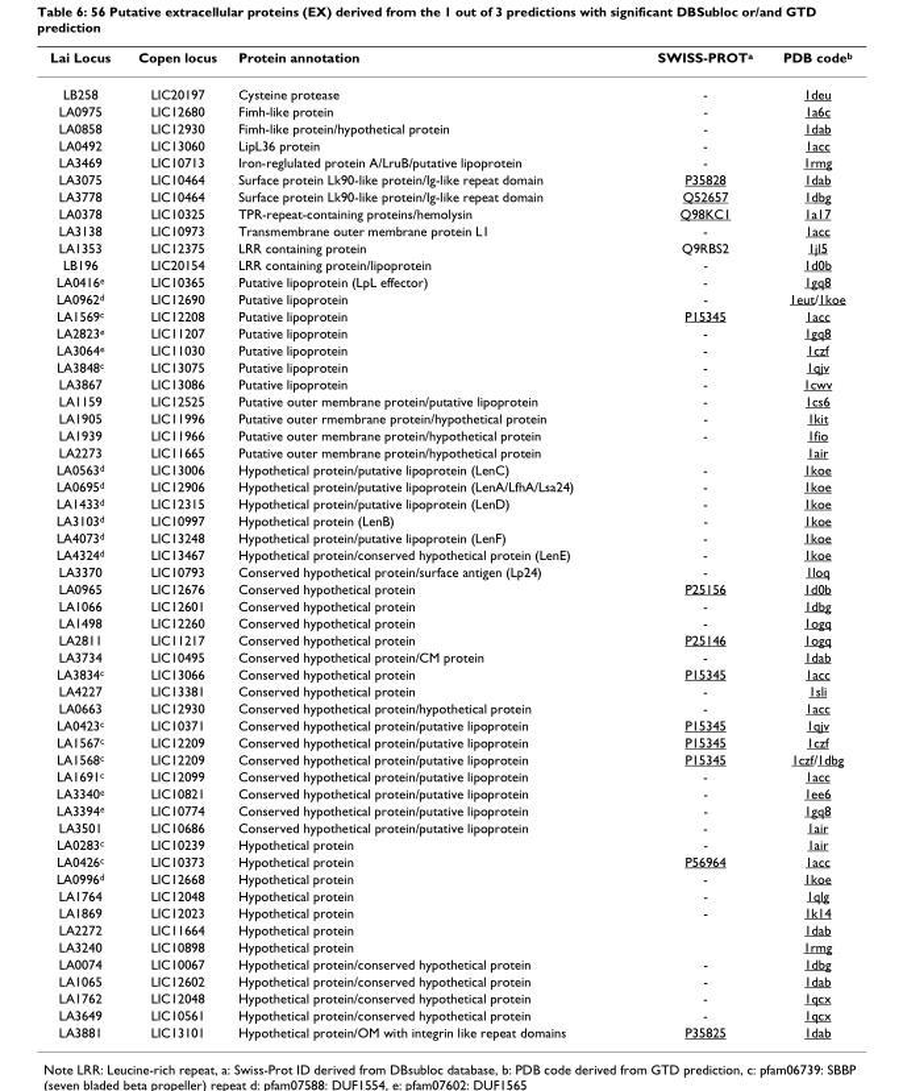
<table><thead><tr><td>Lai Locus</td><td>Copen locus</td><td>Protein annotation</td><td>SWISS-PROT<sup>a</sup></td><td>PDB code<sup>b</sup></td></tr></thead><tbody><tr><td>LB258</td><td>LIC20197</td><td>Cysteine protease</td><td>-</td><td>1deu</td></tr><tr><td>LA0975</td><td>LIC12680</td><td>Fimh-like protein</td><td>-</td><td>1a6c</td></tr><tr><td>LA0858</td><td>LIC12930</td><td>Fimh-like protein/hypothetical protein</td><td>-</td><td>1dab</td></tr><tr><td>LA0492</td><td>LIC13060</td><td>LipL36 protein</td><td>-</td><td>1acc</td></tr><tr><td>LA3469</td><td>LIC10713</td><td>Iron-reglulated protein A/LruB/putative lipoprotein</td><td>-</td><td>1rmg</td></tr><tr><td>LA3075</td><td>LIC10464</td><td>Surface protein Lk90-like protein/Ig-like repeat domain</td><td>P35828</td><td>1dab</td></tr><tr><td>LA3778</td><td>LIC10464</td><td>Surface protein Lk90-like protein/Ig-like repeat domain</td><td>Q52657</td><td>1dbg</td></tr><tr><td>LA0378</td><td>LIC10325</td><td>TPR-repeat-containing proteins/hemolysin</td><td>Q98KC1</td><td>1a17</td></tr><tr><td>LA3138</td><td>LIC10973</td><td>Transmembrane outer membrane protein L1</td><td>-</td><td>1acc</td></tr><tr><td>LA1353</td><td>LIC12375</td><td>LRR containing protein</td><td>Q9RBS2</td><td>1jl5</td></tr><tr><td>LB196</td><td>LIC20154</td><td>LRR containing protein/lipoprotein</td><td>-</td><td>1d0b</td></tr><tr><td>LA0416<sup>e</sup></td><td>LIC10365</td><td>Putative lipoprotein (LpL effector)</td><td>-</td><td>1gq8</td></tr><tr><td>LA0962<sup>d</sup></td><td>LIC12690</td><td>Putative lipoprotein</td><td>-</td><td>1eut/1koe</td></tr><tr><td>LA1569<sup>c</sup></td><td>LIC12208</td><td>Putative lipoprotein</td><td>P15345</td><td>1acc</td></tr><tr><td>LA2823<sup>e</sup></td><td>LIC11207</td><td>Putative lipoprotein</td><td>-</td><td>1gq8</td></tr><tr><td>LA3064<sup>e</sup></td><td>LIC11030</td><td>Putative lipoprotein</td><td>-</td><td>1czf</td></tr><tr><td>LA3848<sup>c</sup></td><td>LIC13075</td><td>Putative lipoprotein</td><td>-</td><td>1qjv</td></tr><tr><td>LA3867</td><td>LIC13086</td><td>Putative lipoprotein</td><td>-</td><td>1cwv</td></tr><tr><td>LA1159</td><td>LIC12525</td><td>Putative outer membrane protein/putative lipoprotein</td><td>-</td><td>1cs6</td></tr><tr><td>LA1905</td><td>LIC11996</td><td>Putative outer rmembrane protein/hypothetical protein</td><td>-</td><td>1kit</td></tr><tr><td>LA1939</td><td>LIC11966</td><td>Putative outer membrane protein/hypothetical protein</td><td>-</td><td>1fio</td></tr><tr><td>LA2273</td><td>LIC11665</td><td>Putative outer membrane protein/hypothetical protein</td><td></td><td>1air</td></tr><tr><td>LA0563<sup>d</sup></td><td>LIC13006</td><td>Hypothetical protein/putative lipoprotein (LenC)</td><td>-</td><td>1koe</td></tr><tr><td>LA0695<sup>d</sup></td><td>LIC12906</td><td>Hypothetical protein/putative lipoprotein (LenA/LfhA/Lsa24)</td><td>-</td><td>1koe</td></tr><tr><td>LA1433<sup>d</sup></td><td>LIC12315</td><td>Hypothetical protein/putative lipoprotein (LenD)</td><td>-</td><td>1koe</td></tr><tr><td>LA3103<sup>d</sup></td><td>LIC10997</td><td>Hypothetical protein (LenB)</td><td>-</td><td>1koe</td></tr><tr><td>LA4073<sup>d</sup></td><td>LIC13248</td><td>Hypothetical protein/putative lipoprotein (LenF)</td><td>-</td><td>1koe</td></tr><tr><td>LA4324<sup>d</sup></td><td>LIC13467</td><td>Hypothetical protein/conserved hypothetical protein (LenE)</td><td>-</td><td>1koe</td></tr><tr><td>LA3370</td><td>LIC10793</td><td>Conserved hypothetical protein/surface antigen (Lp24)</td><td>-</td><td>1loq</td></tr><tr><td>LA0965</td><td>LIC12676</td><td>Conserved hypothetical protein</td><td>P25156</td><td>1d0b</td></tr><tr><td>LA1066</td><td>LIC12601</td><td>Conserved hypothetical protein</td><td>-</td><td>1dbg</td></tr><tr><td>LA1498</td><td>LIC12260</td><td>Conserved hypothetical protein</td><td>-</td><td>1ogq</td></tr><tr><td>LA2811</td><td>LIC11217</td><td>Conserved hypothetical protein</td><td>P25146</td><td>1ogq</td></tr><tr><td>LA3734</td><td>LIC10495</td><td>Conserved hypothetical protein/CM protein</td><td>-</td><td>1dab</td></tr><tr><td>LA3834<sup>c</sup></td><td>LIC13066</td><td>Conserved hypothetical protein</td><td>P15345</td><td>1acc</td></tr><tr><td>LA4227</td><td>LIC13381</td><td>Conserved hypothetical protein</td><td>-</td><td>1sli</td></tr><tr><td>LA0663</td><td>LIC12930</td><td>Conserved hypothetical protein/hypothetical protein</td><td>-</td><td>1acc</td></tr><tr><td>LA0423<sup>c</sup></td><td>LIC10371</td><td>Conserved hypothetical protein/putative lipoprotein</td><td>P15345</td><td>1qjv</td></tr><tr><td>LA1567<sup>c</sup></td><td>LIC12209</td><td>Conserved hypothetical protein/putative lipoprotein</td><td>P15345</td><td>1czf</td></tr><tr><td>LA1568<sup>c</sup></td><td>LIC12209</td><td>Conserved hypothetical protein/putative lipoprotein</td><td>P15345</td><td>1czf/1dbg</td></tr><tr><td>LA1691<sup>c</sup></td><td>LIC12099</td><td>Conserved hypothetical protein/putative lipoprotein</td><td>-</td><td>1acc</td></tr><tr><td>LA3340<sup>e</sup></td><td>LIC10821</td><td>Conserved hypothetical protein/putative lipoprotein</td><td>-</td><td>1ee6</td></tr><tr><td>LA3394<sup>e</sup></td><td>LIC10774</td><td>Conserved hypothetical protein/putative lipoprotein</td><td>-</td><td>1gq8</td></tr><tr><td>LA3501</td><td>LIC10686</td><td>Conserved hypothetical protein/putative lipoprotein</td><td>-</td><td>1air</td></tr><tr><td>LA0283<sup>c</sup></td><td>LIC10239</td><td>Hypothetical protein</td><td>-</td><td>1air</td></tr><tr><td>LA0426<sup>c</sup></td><td>LIC10373</td><td>Hypothetical protein</td><td>P56964</td><td>1acc</td></tr><tr><td>LA0996<sup>d</sup></td><td>LIC12668</td><td>Hypothetical protein</td><td>-</td><td>1koe</td></tr><tr><td>LA1764</td><td>LIC12048</td><td>Hypothetical protein</td><td>-</td><td>1qlg</td></tr><tr><td>LA1869</td><td>LIC12023</td><td>Hypothetical protein</td><td>-</td><td>1k14</td></tr><tr><td>LA2272</td><td>LIC11664</td><td>Hypothetical protein</td><td></td><td>1dab</td></tr><tr><td>LA3240</td><td>LIC10898</td><td>Hypothetical protein</td><td></td><td>1rmg</td></tr><tr><td>LA0074</td><td>LIC10067</td><td>Hypothetical protein/conserved hypothetical protein</td><td>-</td><td>1dbg</td></tr><tr><td>LA1065</td><td>LIC12602</td><td>Hypothetical protein/conserved hypothetical protein</td><td>-</td><td>1dab</td></tr><tr><td>LA1762</td><td>LIC12048</td><td>Hypothetical protein/conserved hypothetical protein</td><td>-</td><td>1qcx</td></tr><tr><td>LA3649</td><td>LIC10561</td><td>Hypothetical protein/conserved hypothetical protein</td><td>-</td><td>1qcx</td></tr><tr><td>LA3881</td><td>LIC13101</td><td>Hypothetical protein/OM with integrin like repeat domains</td><td>P35825</td><td>1dab</td></tr></tbody></table>